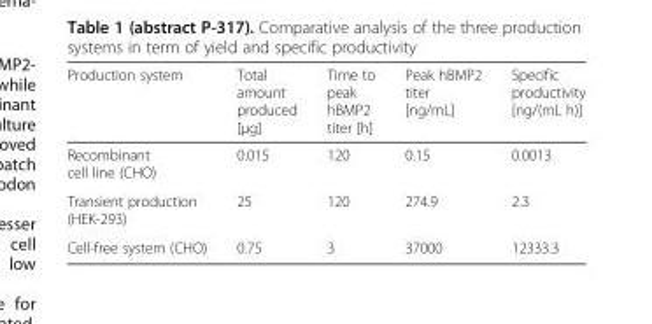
<table><thead><tr><td>Production system</td><td>Total amount produced [μg]</td><td>Time to peak hBMP2 titer [h]</td><td>Peak hBMP2 titer [ng/mL]</td><td>Specific productivity [ng/(mL h)]</td></tr></thead><tbody><tr><td>Recombinant cell line (CHO)</td><td>0.015</td><td>120</td><td>0.15</td><td>0.0013</td></tr><tr><td>Transient production (HEK-293)</td><td>25</td><td>120</td><td>274.9</td><td>2.3</td></tr><tr><td>Cell-free system (CHO)</td><td>0.75</td><td>3</td><td>37000</td><td>12333.3</td></tr></tbody></table>